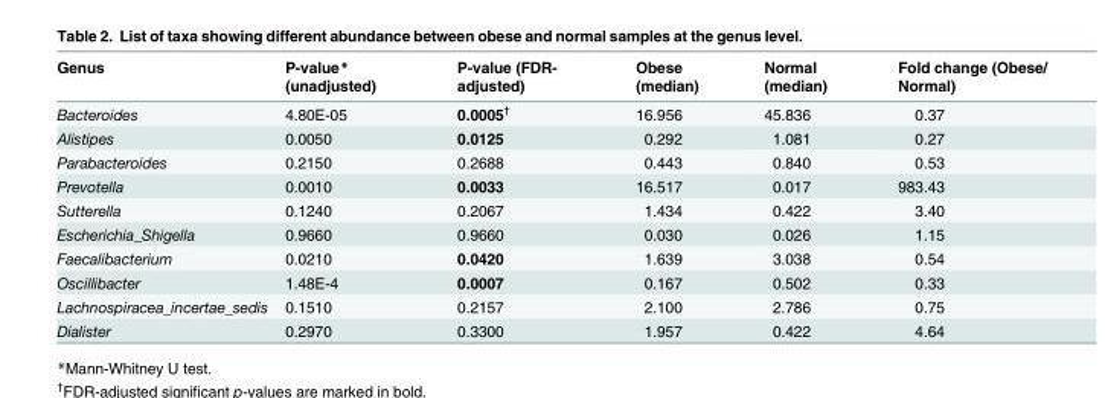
<table><thead><tr><td>Genus</td><td>P-value* (unadjusted)</td><td>P-value (FDR- adjusted)</td><td>Obese (median)</td><td>Normal (median)</td><td>Fold change (Obese/ Normal)</td></tr></thead><tbody><tr><td>Bacteroides</td><td>4.80E-05</td><td>0.0005<sup>†</sup></td><td>16.956</td><td>45.836</td><td>0.37</td></tr><tr><td>Alistipes</td><td>0.0050</td><td>0.0125</td><td>0.292</td><td>1.081</td><td>0.27</td></tr><tr><td>Parabacteroides</td><td>0.2150</td><td>0.2688</td><td>0.443</td><td>0.840</td><td>0.53</td></tr><tr><td>Prevotella</td><td>0.0010</td><td>0.0033</td><td>16.517</td><td>0.017</td><td>983.43</td></tr><tr><td>Sutterella</td><td>0.1240</td><td>0.2067</td><td>1.434</td><td>0.422</td><td>3.40</td></tr><tr><td>Escherichia_Shigella</td><td>0.9660</td><td>0.9660</td><td>0.030</td><td>0.026</td><td>1.15</td></tr><tr><td>Faecalibacterium</td><td>0.0210</td><td>0.0420</td><td>1.639</td><td>3.038</td><td>0.54</td></tr><tr><td>Oscillibacter</td><td>1.48E-4</td><td>0.0007</td><td>0.167</td><td>0.502</td><td>0.33</td></tr><tr><td>Lachnospiracea_incertae_sedis</td><td>0.1510</td><td>0.2157</td><td>2.100</td><td>2.786</td><td>0.75</td></tr><tr><td>Dialister</td><td>0.2970</td><td>0.3300</td><td>1.957</td><td>0.422</td><td>4.64</td></tr></tbody></table>